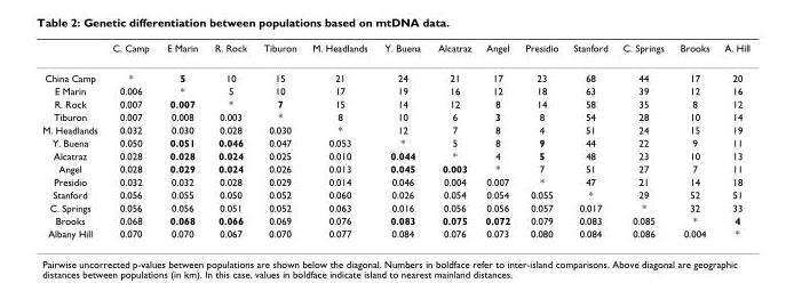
<table><thead><tr><td></td><td>C. Camp</td><td>E Marin</td><td>R. Rock</td><td>Tiburon</td><td>M. Headlands</td><td>Y. Buena</td><td>Alcatraz</td><td>Angel</td><td>Presidio</td><td>Stanford</td><td>C. Springs</td><td>Brooks</td><td>A. Hill</td></tr></thead><tbody><tr><td>China Camp</td><td>*</td><td>5</td><td>10</td><td>15</td><td>21</td><td>24</td><td>21</td><td>17</td><td>23</td><td>68</td><td>44</td><td>17</td><td>20</td></tr><tr><td>E Marin</td><td>0.006</td><td>*</td><td>5</td><td>10</td><td>17</td><td>19</td><td>16</td><td>12</td><td>18</td><td>63</td><td>39</td><td>12</td><td>16</td></tr><tr><td>R. Rock</td><td>0.007</td><td>0.007</td><td>*</td><td>7</td><td>15</td><td>14</td><td>12</td><td>8</td><td>14</td><td>58</td><td>35</td><td>8</td><td>12</td></tr><tr><td>Tiburon</td><td>0.007</td><td>0.008</td><td>0.003</td><td>*</td><td>8</td><td>10</td><td>6</td><td>3</td><td>8</td><td>54</td><td>28</td><td>10</td><td>14</td></tr><tr><td>M. Headlands</td><td>0.032</td><td>0.030</td><td>0.028</td><td>0.030</td><td>*</td><td>12</td><td>7</td><td>8</td><td>4</td><td>51</td><td>24</td><td>15</td><td>19</td></tr><tr><td>Y. Buena</td><td>0.050</td><td>0.051</td><td>0.046</td><td>0.047</td><td>0.053</td><td>*</td><td>5</td><td>8</td><td>9</td><td>44</td><td>22</td><td>9</td><td>11</td></tr><tr><td>Alcatraz</td><td>0.028</td><td>0.028</td><td>0.024</td><td>0.025</td><td>0.010</td><td>0.044</td><td>*</td><td>4</td><td>5</td><td>48</td><td>23</td><td>10</td><td>13</td></tr><tr><td>Angel</td><td>0.028</td><td>0.029</td><td>0.024</td><td>0.026</td><td>0.013</td><td>0.045</td><td>0.003</td><td>*</td><td>7</td><td>51</td><td>27</td><td>7</td><td>11</td></tr><tr><td>Presidio</td><td>0.032</td><td>0.032</td><td>0.028</td><td>0.029</td><td>0.014</td><td>0.046</td><td>0.004</td><td>0.007</td><td>*</td><td>47</td><td>21</td><td>14</td><td>18</td></tr><tr><td>Stanford</td><td>0.056</td><td>0.055</td><td>0.050</td><td>0.052</td><td>0.060</td><td>0.026</td><td>0.054</td><td>0.054</td><td>0.055</td><td>*</td><td>29</td><td>52</td><td>51</td></tr><tr><td>C. Springs</td><td>0.056</td><td>0.056</td><td>0.051</td><td>0.052</td><td>0.063</td><td>0.016</td><td>0.056</td><td>0.056</td><td>0.057</td><td>0.017</td><td>*</td><td>32</td><td>33</td></tr><tr><td>Brooks</td><td>0.068</td><td>0.068</td><td>0.066</td><td>0.069</td><td>0.076</td><td>0.083</td><td>0.075</td><td>0.072</td><td>0.079</td><td>0.083</td><td>0.085</td><td>*</td><td>4</td></tr><tr><td>Albany Hill</td><td>0.070</td><td>0.070</td><td>0.067</td><td>0.070</td><td>0.077</td><td>0.084</td><td>0.076</td><td>0.073</td><td>0.080</td><td>0.084</td><td>0.086</td><td>0.004</td><td>*</td></tr></tbody></table>